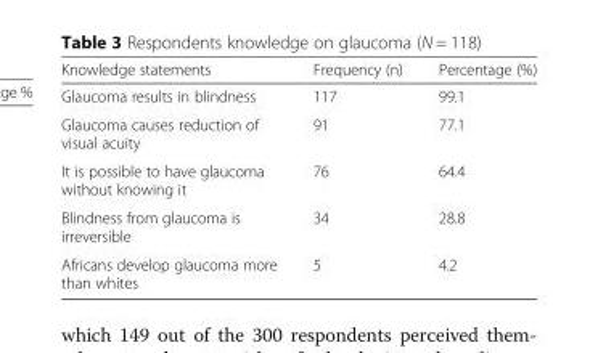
<table><thead><tr><td>Knowledge statements</td><td>Frequency (n)</td><td>Percentage (%)</td></tr></thead><tbody><tr><td>Glaucoma results in blindness</td><td>117</td><td>99.1</td></tr><tr><td>Glaucoma causes reduction of visual acuity</td><td>91</td><td>77.1</td></tr><tr><td>It is possible to have glaucoma without knowing it</td><td>76</td><td>64.4</td></tr><tr><td>Blindness from glaucoma is irreversible</td><td>34</td><td>28.8</td></tr><tr><td>Africans develop glaucoma more than whites</td><td>5</td><td>4.2</td></tr></tbody></table>